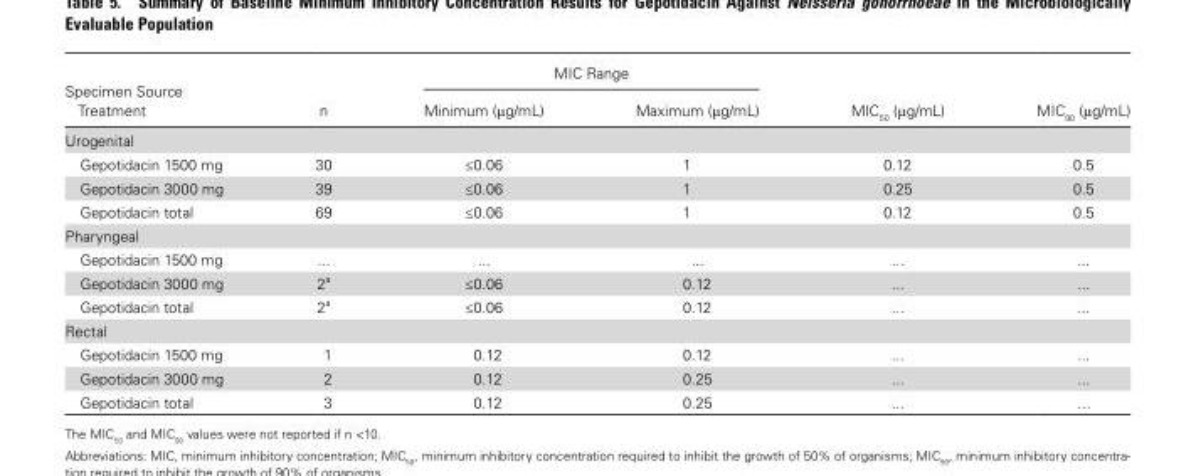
<table><thead><tr><td rowspan="2">Specimen Source Treatment</td><td rowspan="2">n</td><td colspan="2">MIC Range</td><td rowspan="2">MIC<sub>50</sub> (μg/mL)</td><td rowspan="2">MIC<sub>90</sub> (μg/mL)</td></tr><tr><td>Minimum (μg/mL)</td><td>Maximum (μg/mL)</td></tr></thead><tbody><tr><td colspan="6">Urogenital</td></tr><tr><td>Gepotidacin 1500 mg</td><td>30</td><td>≤0.06</td><td>1</td><td>0.12</td><td>0.5</td></tr><tr><td>Gepotidacin 3000 mg</td><td>39</td><td>≤0.06</td><td>1</td><td>0.25</td><td>0.5</td></tr><tr><td>Gepotidacin total</td><td>69</td><td>≤0.06</td><td>1</td><td>0.12</td><td>0.5</td></tr><tr><td colspan="6">Pharyngeal</td></tr><tr><td>Gepotidacin 1500 mg</td><td>...</td><td>...</td><td>...</td><td>...</td><td>...</td></tr><tr><td>Gepotidacin 3000 mg</td><td>2<sup>a</sup></td><td>≤0.06</td><td>0.12</td><td>...</td><td>...</td></tr><tr><td>Gepotidacin total</td><td>2<sup>a</sup></td><td>≤0.06</td><td>0.12</td><td>...</td><td>...</td></tr><tr><td colspan="6">Rectal</td></tr><tr><td>Gepotidacin 1500 mg</td><td>1</td><td>0.12</td><td>0.12</td><td>...</td><td>...</td></tr><tr><td>Gepotidacin 3000 mg</td><td>2</td><td>0.12</td><td>0.25</td><td>...</td><td>...</td></tr><tr><td>Gepotidacin total</td><td>3</td><td>0.12</td><td>0.25</td><td>...</td><td>…</td></tr></tbody></table>